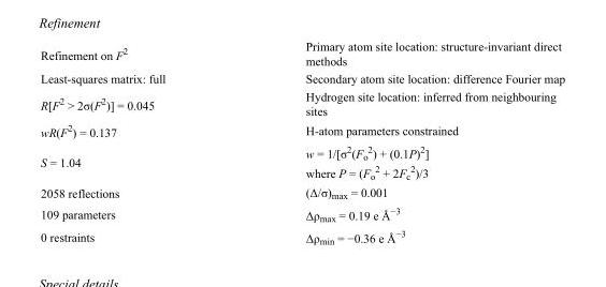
<table><tbody><tr><td>Refinement on F<sup>2</sup></td><td>Primary atom site location: structure-invariant direct methods</td></tr><tr><td>Least-squares matrix: full</td><td>Secondary atom site location: difference Fourier map</td></tr><tr><td>R[F<sup>2</sup> &gt; 2σ(F<sup>2</sup>)] = 0.045</td><td>Hydrogen site location: inferred from neighbouring sites</td></tr><tr><td>wR(F<sup>2</sup>) = 0.137</td><td>H-atom parameters constrained</td></tr><tr><td>S = 1.04</td><td>w = 1/[σ<sup>2</sup>(F<sub>o</sub> <sup>2</sup>) + (0.1P)<sup>2</sup>] where P = (F<sub>o</sub> <sup>2</sup> + 2F<sub>c</sub> <sup>2</sup>)/3</td></tr><tr><td>2058 reflections</td><td>(Δ/σ)<sub>max</sub> = 0.001</td></tr><tr><td>109 parameters</td><td>Δρ<sub>max</sub> = 0.19 e Å<sup>−3</sup></td></tr><tr><td>0 restraints</td><td>Δρ<sub>min</sub> = −0.36 e Å<sup>−3</sup></td></tr></tbody></table>